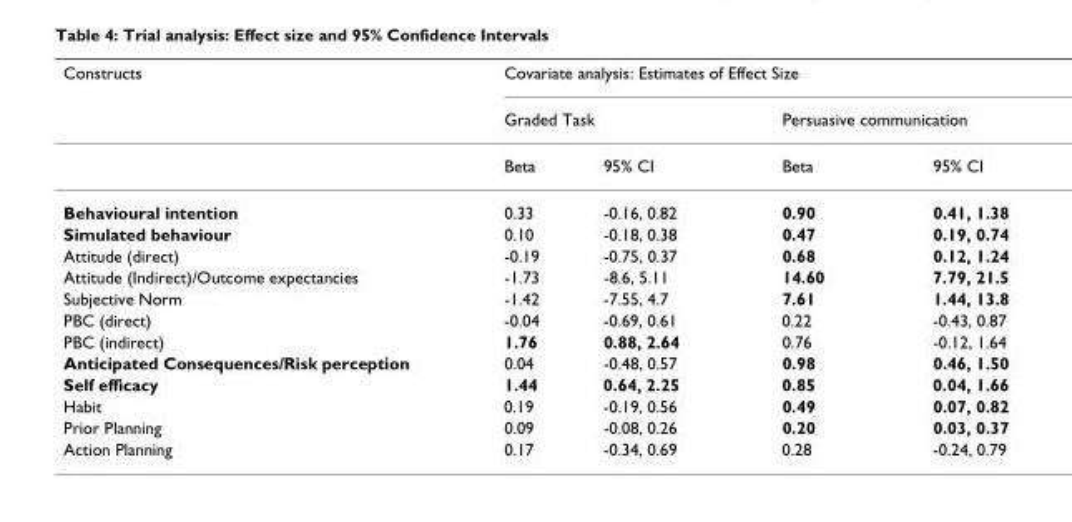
<table><thead><tr><td rowspan="3">Constructs</td><td colspan="4">Covariate analysis: Estimates of Effect Size</td></tr><tr><td colspan="2">Graded Task</td><td colspan="2">Persuasive communication</td></tr><tr><td>Beta</td><td>95% CI</td><td>Beta</td><td>95% CI</td></tr></thead><tbody><tr><td>Behavioural intention</td><td>0.33</td><td>-0.16, 0.82</td><td>0.90</td><td>0.41, 1.38</td></tr><tr><td>Simulated behaviour</td><td>0.10</td><td>-0.18, 0.38</td><td>0.47</td><td>0.19, 0.74</td></tr><tr><td>Attitude (direct)</td><td>-0.19</td><td>-0.75, 0.37</td><td>0.68</td><td>0.12, 1.24</td></tr><tr><td>Attitude (Indirect)/Outcome expectancies</td><td>-1.73</td><td>-8.6, 5.11</td><td>14.60</td><td>7.79, 21.5</td></tr><tr><td>Subjective Norm</td><td>-1.42</td><td>-7.55, 4.7</td><td>7.61</td><td>1.44, 13.8</td></tr><tr><td>PBC (direct)</td><td>-0.04</td><td>-0.69, 0.61</td><td>0.22</td><td>-0.43, 0.87</td></tr><tr><td>PBC (indirect)</td><td>1.76</td><td>0.88, 2.64</td><td>0.76</td><td>-0.12, 1.64</td></tr><tr><td>Anticipated Consequences/Risk perception</td><td>0.04</td><td>-0.48, 0.57</td><td>0.98</td><td>0.46, 1.50</td></tr><tr><td>Self efficacy</td><td>1.44</td><td>0.64, 2.25</td><td>0.85</td><td>0.04, 1.66</td></tr><tr><td>Habit</td><td>0.19</td><td>-0.19, 0.56</td><td>0.49</td><td>0.07, 0.82</td></tr><tr><td>Prior Planning</td><td>0.09</td><td>-0.08, 0.26</td><td>0.20</td><td>0.03, 0.37</td></tr><tr><td>Action Planning</td><td>0.17</td><td>-0.34, 0.69</td><td>0.28</td><td>-0.24, 0.79</td></tr></tbody></table>